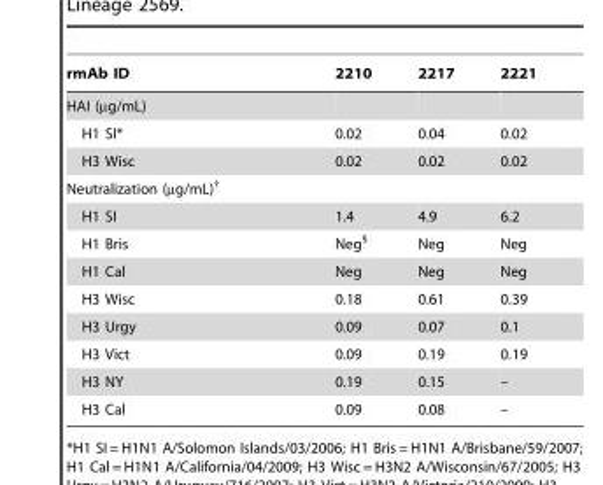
<table><thead><tr><td>rmAb ID</td><td>2210</td><td>2217</td><td>2221</td></tr></thead><tbody><tr><td colspan="4">HAI (µg/mL)</td></tr><tr><td>H1 SI*</td><td>0.02</td><td>0.04</td><td>0.02</td></tr><tr><td>H3 Wisc</td><td>0.02</td><td>0.02</td><td>0.02</td></tr><tr><td colspan="4">Neutralization (µg/mL)†</td></tr><tr><td>H1 SI</td><td>1.4</td><td>4.9</td><td>6.2</td></tr><tr><td>H1 Bris</td><td>Neg§</td><td>Neg</td><td>Neg</td></tr><tr><td>H1 Cal</td><td>Neg</td><td>Neg</td><td>Neg</td></tr><tr><td>H3 Wisc</td><td>0.18</td><td>0.61</td><td>0.39</td></tr><tr><td>H3 Urgy</td><td>0.09</td><td>0.07</td><td>0.1</td></tr><tr><td>H3 Vict</td><td>0.09</td><td>0.19</td><td>0.19</td></tr><tr><td>H3 NY</td><td>0.19</td><td>0.15</td><td>–</td></tr><tr><td>H3 Cal</td><td>0.09</td><td>0.08</td><td>–</td></tr></tbody></table>